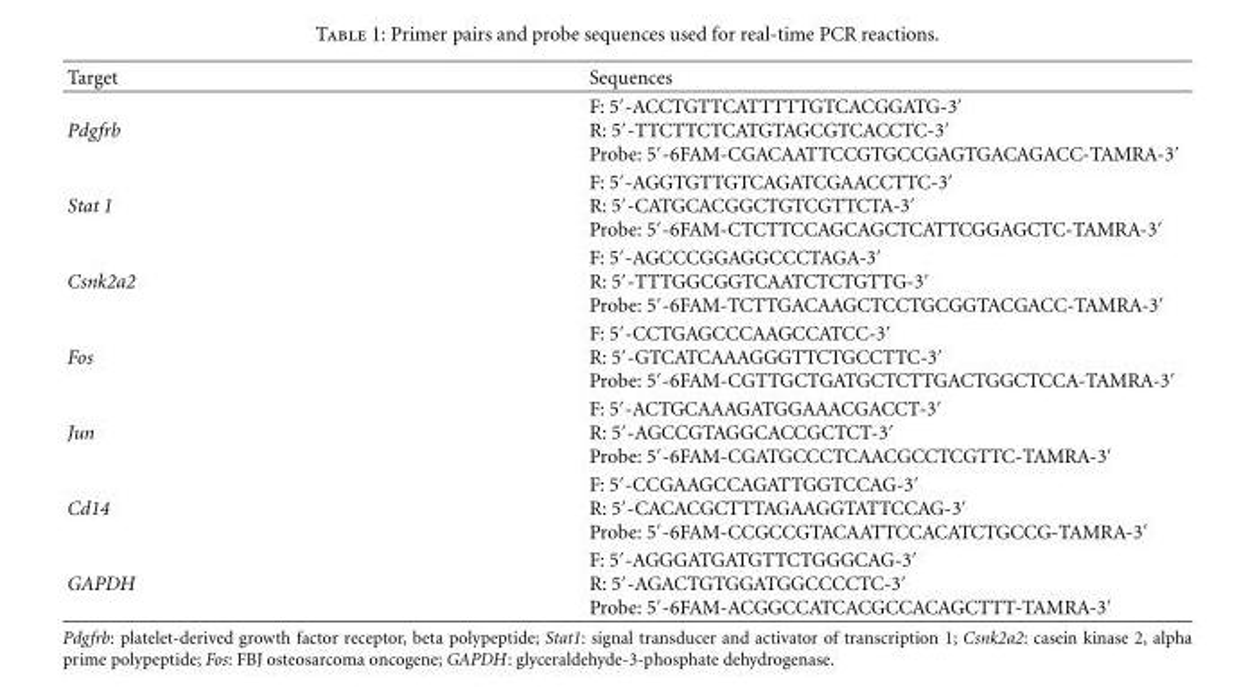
<table><thead><tr><td>Target</td><td>Sequences</td></tr></thead><tbody><tr><td>Pdgfrb</td><td>F: 5′-ACCTGTTCATTTTTGTCACGGATG-3′ R: 5′-TTCTTCTCATGTAGCGTCACCTC-3′ Probe: 5′-6FAM-CGACAATTCCGTGCCGAGTGACAGACC-TAMRA-3′</td></tr><tr><td>Stat 1</td><td>F: 5′-AGGTGTTGTCAGATCGAACCTTC-3′ R: 5′-CATGCACGGCTGTCGTTCTA-3′ Probe: 5′-6FAM-CTCTTCCAGCAGCTCATTCGGAGCTC-TAMRA-3′</td></tr><tr><td>Csnk2a2</td><td>F: 5′-AGCCCGGAGGCCCTAGA-3′ R: 5′-TTTGGCGGTCAATCTCTGTTG-3′ Probe: 5′-6FAM-TCTTGACAAGCTCCTGCGGTACGACC-TAMRA-3′</td></tr><tr><td>Fos</td><td>F: 5′-CCTGAGCCCAAGCCATCC-3′ R: 5′-GTCATCAAAGGGTTCTGCCTTC-3′ Probe: 5′-6FAM-CGTTGCTGATGCTCTTGACTGGCTCCA-TAMRA-3′</td></tr><tr><td>Jun</td><td>F: 5′-ACTGCAAAGATGGAAACGACCT-3′ R: 5′-AGCCGTAGGCACCGCTCT-3′ Probe: 5′-6FAM-CGATGCCCTCAACGCCTCGTTC-TAMRA-3′</td></tr><tr><td>Cd14</td><td>F: 5′-CCGAAGCCAGATTGGTCCAG-3′ R: 5′-CACACGCTTTAGAAGGTATTCCAG-3′ Probe: 5′-6FAM-CCGCCGTACAATTCCACATCTGCCG-TAMRA-3′</td></tr><tr><td>GAPDH</td><td>F: 5′-AGGGATGATGTTCTGGGCAG-3′ R: 5′-AGACTGTGGATGGCCCCTC-3′ Probe: 5′-6FAM-ACGGCCATCACGCCACAGCTTT-TAMRA-3′</td></tr></tbody></table>